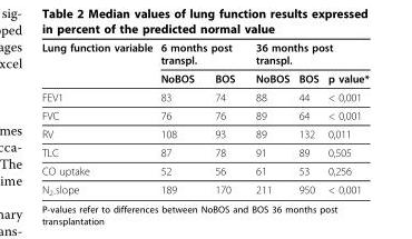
<table><thead><tr><td rowspan="2">Lung function variable</td><td colspan="2">6 months post transpl.</td><td colspan="3">36 months post transpl.</td></tr><tr><td>NoBOS</td><td>BOS</td><td>NoBOS</td><td>BOS</td><td>p value*</td></tr></thead><tbody><tr><td>FEV1</td><td>83</td><td>74</td><td>88</td><td>44</td><td>&lt; 0,001</td></tr><tr><td>FVC</td><td>76</td><td>76</td><td>89</td><td>64</td><td>&lt; 0,001</td></tr><tr><td>RV</td><td>108</td><td>93</td><td>89</td><td>132</td><td>0,011</td></tr><tr><td>TLC</td><td>87</td><td>78</td><td>91</td><td>89</td><td>0,505</td></tr><tr><td>CO uptake</td><td>52</td><td>56</td><td>61</td><td>53</td><td>0,256</td></tr><tr><td>N<sub>2-</sub>slope</td><td>189</td><td>170</td><td>211</td><td>950</td><td>&lt; 0,001</td></tr></tbody></table>